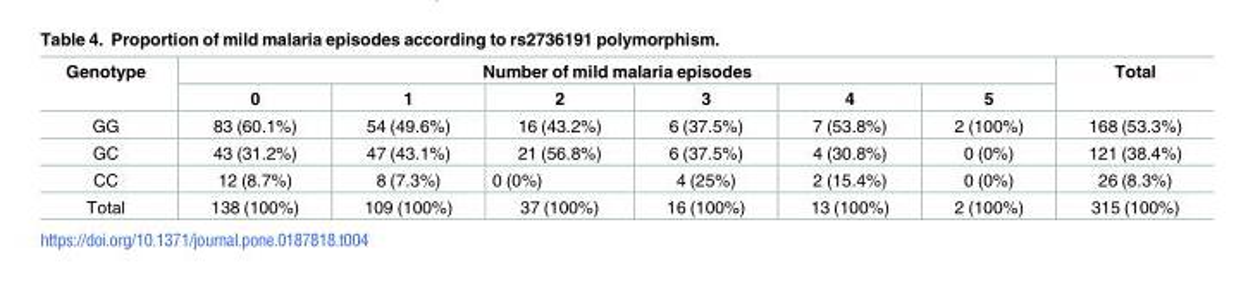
<table><thead><tr><td rowspan="2">Genotype</td><td colspan="6">Number of mild malaria episodes</td><td rowspan="2">Total</td></tr><tr><td>0</td><td>1</td><td>2</td><td>3</td><td>4</td><td>5</td></tr></thead><tbody><tr><td>GG</td><td>83 (60.1%)</td><td>54 (49.6%)</td><td>16 (43.2%)</td><td>6 (37.5%)</td><td>7 (53.8%)</td><td>2 (100%)</td><td>168 (53.3%)</td></tr><tr><td>GC</td><td>43 (31.2%)</td><td>47 (43.1%)</td><td>21 (56.8%)</td><td>6 (37.5%)</td><td>4 (30.8%)</td><td>0 (0%)</td><td>121 (38.4%)</td></tr><tr><td>CC</td><td>12 (8.7%)</td><td>8 (7.3%)</td><td>0 (0%)</td><td>4 (25%)</td><td>2 (15.4%)</td><td>0 (0%)</td><td>26 (8.3%)</td></tr><tr><td>Total</td><td>138 (100%)</td><td>109 (100%)</td><td>37 (100%)</td><td>16 (100%)</td><td>13 (100%)</td><td>2 (100%)</td><td>315 (100%)</td></tr></tbody></table>